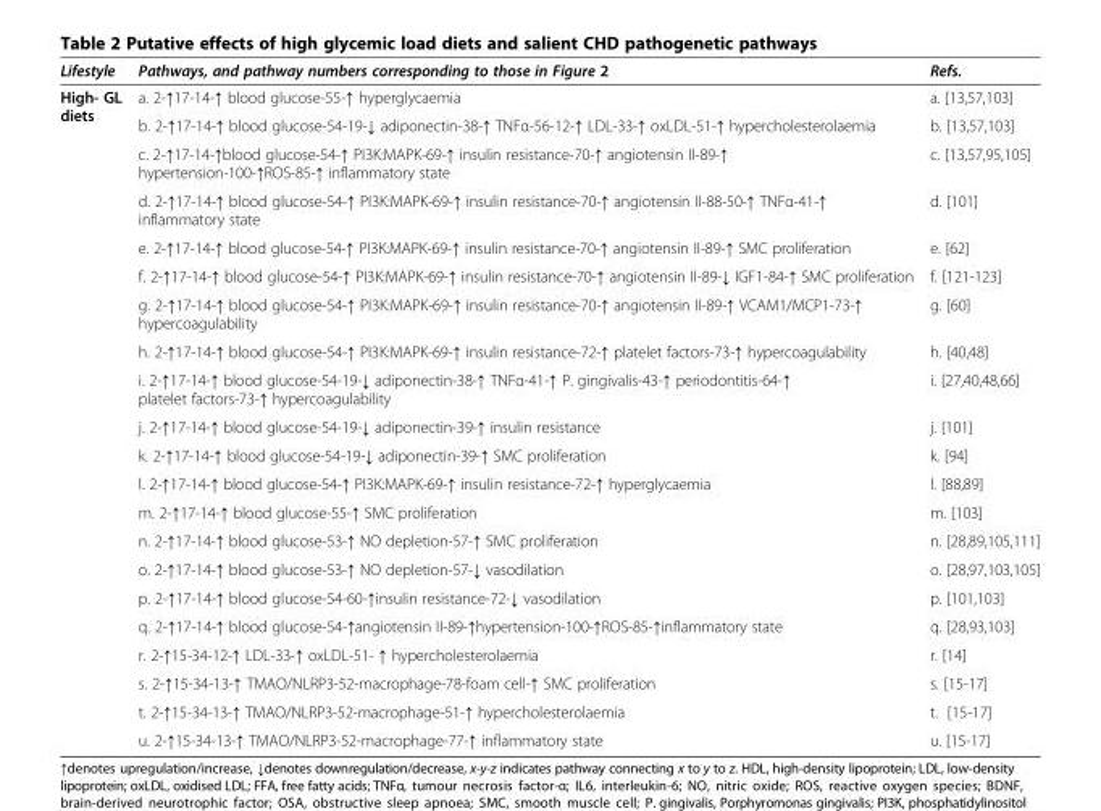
<table><thead><tr><td>Lifestyle</td><td>Pathways, and pathway numbers corresponding to those in Figure 2</td><td>Refs.</td></tr></thead><tbody><tr><td rowspan="21">High- GL diets</td><td>a. 2-↑17-14-↑ blood glucose-55-↑ hyperglycaemia</td><td>a. [13,57,103]</td></tr><tr><td>b. 2-↑17-14-↑ blood glucose-54-19-↓ adiponectin-38-↑ TNFα-56-12-↑ LDL-33-↑ oxLDL-51-↑ hypercholesterolaemia</td><td>b. [13,57,103]</td></tr><tr><td>c. 2-↑17-14-↑blood glucose-54-↑ PI3K:MAPK-69-↑ insulin resistance-70-↑ angiotensin II-89-↑ hypertension-100-↑ROS-85-↑ inflammatory state</td><td>c. [13,57,95,105]</td></tr><tr><td>d. 2-↑17-14-↑ blood glucose-54-↑ PI3K:MAPK-69-↑ insulin resistance-70-↑ angiotensin II-88-50-↑ TNFα-41-↑ inflammatory state</td><td>d. [101]</td></tr><tr><td>e. 2-↑17-14-↑ blood glucose-54-↑ PI3K:MAPK-69-↑ insulin resistance-70-↑ angiotensin II-89-↑ SMC proliferation</td><td>e. [62]</td></tr><tr><td>f. 2-↑17-14-↑ blood glucose-54-↑ PI3K:MAPK-69-↑ insulin resistance-70-↑ angiotensin II-89-↓ IGF1-84-↑ SMC proliferation</td><td>f. [121-123]</td></tr><tr><td>g. 2-↑17-14-↑ blood glucose-54-↑ PI3K:MAPK-69-↑ insulin resistance-70-↑ angiotensin II-89-↑ VCAM1/MCP1-73-↑ hypercoagulability</td><td>g. [60]</td></tr><tr><td>h. 2-↑17-14-↑ blood glucose-54-↑ PI3K:MAPK-69-↑ insulin resistance-72-↑ platelet factors-73-↑ hypercoagulability</td><td>h. [40,48]</td></tr><tr><td>i. 2-↑17-14-↑ blood glucose-54-19-↓ adiponectin-38-↑ TNFα-41-↑ P. gingivalis-43-↑ periodontitis-64-↑ platelet factors-73-↑ hypercoagulability</td><td>i. [27,40,48,66]</td></tr><tr><td>j. 2-↑17-14-↑ blood glucose-54-19-↓ adiponectin-39-↑ insulin resistance</td><td>j. [101]</td></tr><tr><td>k. 2-↑17-14-↑ blood glucose-54-19-↓ adiponectin-39-↑ SMC proliferation</td><td>k. [94]</td></tr><tr><td>l. 2-↑17-14-↑ blood glucose-54-↑ PI3K:MAPK-69-↑ insulin resistance-72-↑ hyperglycaemia</td><td>l. [88,89]</td></tr><tr><td>m. 2-↑17-14-↑ blood glucose-55-↑ SMC proliferation</td><td>m. [103]</td></tr><tr><td>n. 2-↑17-14-↑ blood glucose-53-↑ NO depletion-57-↑ SMC proliferation</td><td>n. [28,89,105,111]</td></tr><tr><td>o. 2-↑17-14-↑ blood glucose-53-↑ NO depletion-57-↓ vasodilation</td><td>o. [28,97,103,105]</td></tr><tr><td>p. 2-↑17-14-↑ blood glucose-54-60-↑insulin resistance-72-↓ vasodilation</td><td>p. [101,103]</td></tr><tr><td>q. 2-↑17-14-↑ blood glucose-54-↑angiotensin II-89-↑hypertension-100-↑ROS-85-↑inflammatory state</td><td>q. [28,93,103]</td></tr><tr><td>r. 2-↑15-34-12-↑ LDL-33-↑ oxLDL-51- ↑ hypercholesterolaemia</td><td>r. [14]</td></tr><tr><td>s. 2-↑15-34-13-↑ TMAO/NLRP3-52-macrophage-78-foam cell-↑ SMC proliferation</td><td>s. [15-17]</td></tr><tr><td>t. 2-↑15-34-13-↑ TMAO/NLRP3-52-macrophage-51-↑ hypercholesterolaemia</td><td>t. [15-17]</td></tr><tr><td>u. 2-↑15-34-13-↑ TMAO/NLRP3-52-macrophage-77-↑ inflammatory state</td><td>u. [15-17]</td></tr></tbody></table>